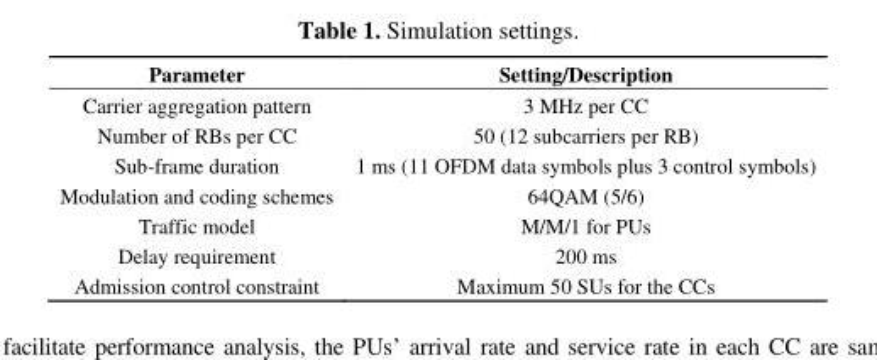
<table><thead><tr><td>Parameter</td><td>Setting/Description</td></tr></thead><tbody><tr><td>Carrier aggregation pattern</td><td>3 MHz per CC</td></tr><tr><td>Number of RBs per CC</td><td>50 (12 subcarriers per RB)</td></tr><tr><td>Sub-frame duration</td><td>1 ms (11 OFDM data symbols plus 3 control symbols)</td></tr><tr><td>Modulation and coding schemes</td><td>64QAM (5/6)</td></tr><tr><td>Traffic model</td><td>M/M/1 for PUs</td></tr><tr><td>Delay requirement</td><td>200 ms</td></tr><tr><td>Admission control constraint</td><td>Maximum 50 SUs for the CCs</td></tr></tbody></table>